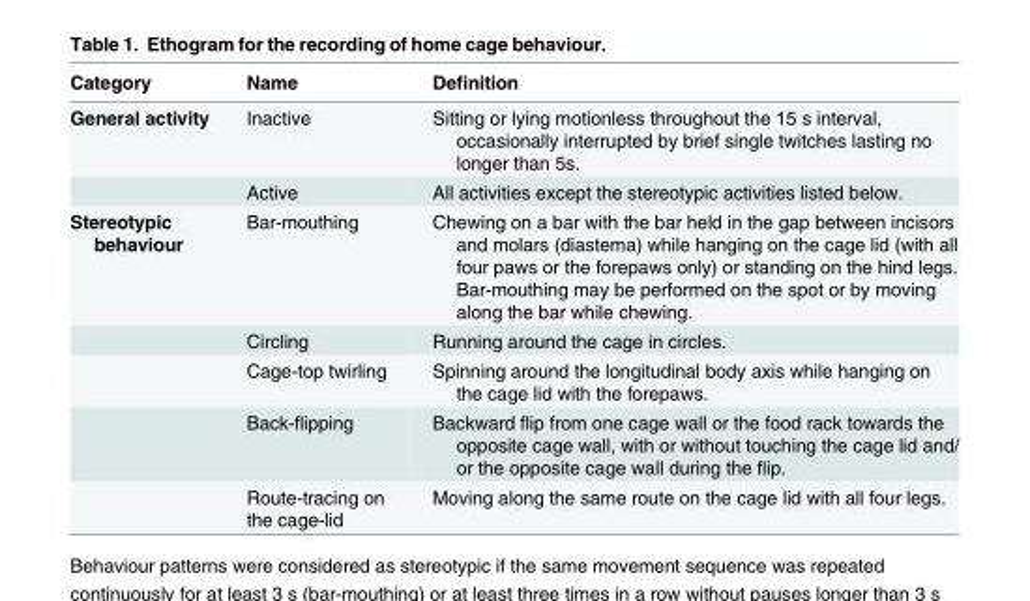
<table><thead><tr><td>Category</td><td>Name</td><td>Definition</td></tr></thead><tbody><tr><td rowspan="2">General activity</td><td>Inactive</td><td>Sitting or lying motionless throughout the 15 s interval, occasionally interrupted by brief single twitches lasting no longer than 5s.</td></tr><tr><td>Active</td><td>All activities except the stereotypic activities listed below.</td></tr><tr><td rowspan="5">Stereotypic behaviour</td><td>Bar-mouthing</td><td>Chewing on a bar with the bar held in the gap between incisors and molars (diastema) while hanging on the cage lid (with all four paws or the forepaws only) or standing on the hind legs. Bar-mouthing may be performed on the spot or by moving along the bar while chewing.</td></tr><tr><td>Circling</td><td>Running around the cage in circles.</td></tr><tr><td>Cage-top twirling</td><td>Spinning around the longitudinal body axis while hanging on the cage lid with the forepaws.</td></tr><tr><td>Back-flipping</td><td>Backward flip from one cage wall or the food rack towards the opposite cage wall, with or without touching the cage lid and/ or the opposite cage wall during the flip.</td></tr><tr><td>Route-tracing on the cage-lid</td><td>Moving along the same route on the cage lid with all four legs.</td></tr></tbody></table>